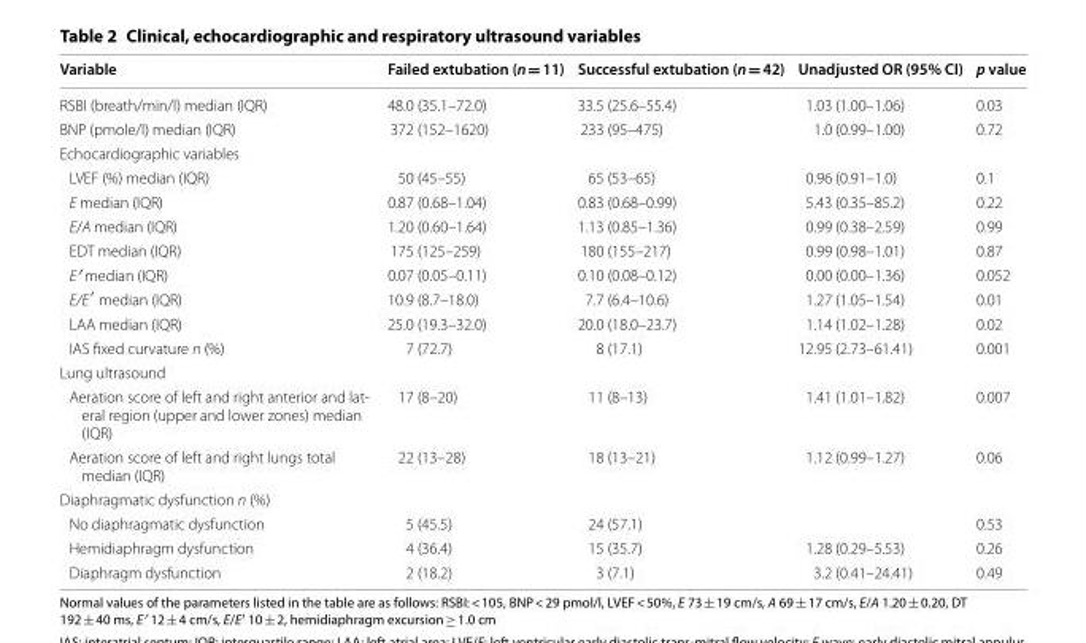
<table><thead><tr><td>Variable</td><td>Failed extubation (n = 11)</td><td>Successful extubation (n = 42)</td><td>Unadjusted OR (95% CI)</td><td>p value</td></tr></thead><tbody><tr><td>RSBI (breath/min/l) median (IQR)</td><td>48.0 (35.1–72.0)</td><td>33.5 (25.6–55.4)</td><td>1.03 (1.00–1.06)</td><td>0.03</td></tr><tr><td>BNP (pmole/l) median (IQR)</td><td>372 (152–1620)</td><td>233 (95–475)</td><td>1.0 (0.99–1.00)</td><td>0.72</td></tr><tr><td colspan="5">Echocardiographic variables</td></tr><tr><td>LVEF (%) median (IQR)</td><td>50 (45–55)</td><td>65 (53–65)</td><td>0.96 (0.91–1.0)</td><td>0.1</td></tr><tr><td>E median (IQR)</td><td>0.87 (0.68–1.04)</td><td>0.83 (0.68–0.99)</td><td>5.43 (0.35–85.2)</td><td>0.22</td></tr><tr><td>E/A median (IQR)</td><td>1.20 (0.60–1.64)</td><td>1.13 (0.85–1.36)</td><td>0.99 (0.38–2.59)</td><td>0.99</td></tr><tr><td>EDT median (IQR)</td><td>175 (125–259)</td><td>180 (155–217)</td><td>0.99 (0.98–1.01)</td><td>0.87</td></tr><tr><td>E′ median (IQR)</td><td>0.07 (0.05–0.11)</td><td>0.10 (0.08–0.12)</td><td>0.00 (0.00–1.36)</td><td>0.052</td></tr><tr><td>E/E′ median (IQR)</td><td>10.9 (8.7–18.0)</td><td>7.7 (6.4–10.6)</td><td>1.27 (1.05–1.54)</td><td>0.01</td></tr><tr><td>LAA median (IQR)</td><td>25.0 (19.3–32.0)</td><td>20.0 (18.0–23.7)</td><td>1.14 (1.02–1.28)</td><td>0.02</td></tr><tr><td>IAS fixed curvature n (%)</td><td>7 (72.7)</td><td>8 (17.1)</td><td>12.95 (2.73–61.41)</td><td>0.001</td></tr><tr><td colspan="5">Lung ultrasound</td></tr><tr><td>Aeration score of left and right anterior and lat- eral region (upper and lower zones) median (IQR)</td><td>17 (8–20)</td><td>11 (8–13)</td><td>1.41 (1.01–1.82)</td><td>0.007</td></tr><tr><td>Aeration score of left and right lungs total median (IQR)</td><td>22 (13–28)</td><td>18 (13–21)</td><td>1.12 (0.99–1.27)</td><td>0.06</td></tr><tr><td colspan="5">Diaphragmatic dysfunction n (%)</td></tr><tr><td>No diaphragmatic dysfunction</td><td>5 (45.5)</td><td>24 (57.1)</td><td></td><td>0.53</td></tr><tr><td>Hemidiaphragm dysfunction</td><td>4 (36.4)</td><td>15 (35.7)</td><td>1.28 (0.29–5.53)</td><td>0.26</td></tr><tr><td>Diaphragm dysfunction</td><td>2 (18.2)</td><td>3 (7.1)</td><td>3.2 (0.41–24.41)</td><td>0.49</td></tr></tbody></table>